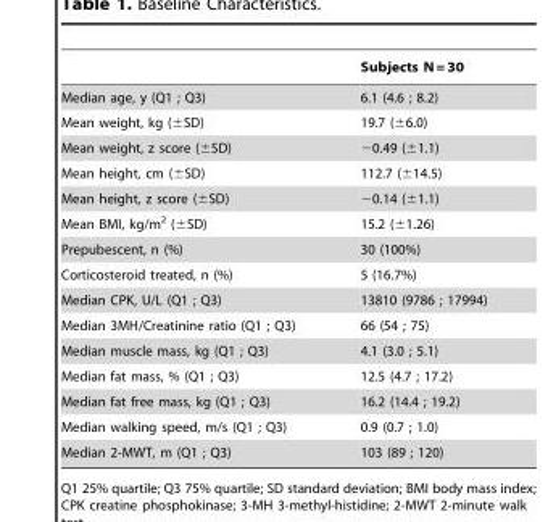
<table><thead><tr><td></td><td>Subjects N = 30</td></tr></thead><tbody><tr><td>Median age, y (Q1 ; Q3)</td><td>6.1 (4.6 ; 8.2)</td></tr><tr><td>Mean weight, kg (±SD)</td><td>19.7 (±6.0)</td></tr><tr><td>Mean weight, z score (±SD)</td><td>−0.49 (±1.1)</td></tr><tr><td>Mean height, cm (±SD)</td><td>112.7 (±14.5)</td></tr><tr><td>Mean height, z score (±SD)</td><td>−0.14 (±1.1)</td></tr><tr><td>Mean BMI, kg/m<sup>2</sup> (±SD)</td><td>15.2 (±1.26)</td></tr><tr><td>Prepubescent, n (%)</td><td>30 (100%)</td></tr><tr><td>Corticosteroid treated, n (%)</td><td>5 (16.7%)</td></tr><tr><td>Median CPK, U/L (Q1 ; Q3)</td><td>13810 (9786 ; 17994)</td></tr><tr><td>Median 3MH/Creatinine ratio (Q1 ; Q3)</td><td>66 (54 ; 75)</td></tr><tr><td>Median muscle mass, kg (Q1 ; Q3)</td><td>4.1 (3.0 ; 5.1)</td></tr><tr><td>Median fat mass, % (Q1 ; Q3)</td><td>12.5 (4.7 ; 17.2)</td></tr><tr><td>Median fat free mass, kg (Q1 ; Q3)</td><td>16.2 (14.4 ; 19.2)</td></tr><tr><td>Median walking speed, m/s (Q1 ; Q3)</td><td>0.9 (0.7 ; 1.0)</td></tr><tr><td>Median 2-MWT, m (Q1 ; Q3)</td><td>103 (89 ; 120)</td></tr></tbody></table>